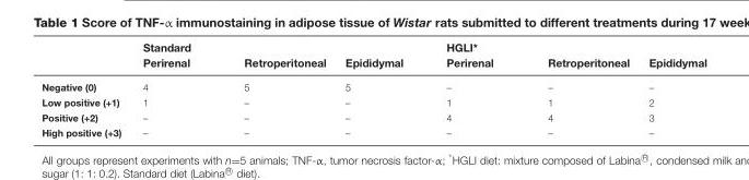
<table><thead><tr><td rowspan="2"></td><td rowspan="2">Standard Perirenal</td><td rowspan="2">Retroperitoneal</td><td rowspan="2">Epididymal</td><td rowspan="2">HGLI* Perirenal</td><td rowspan="2">Retroperitoneal</td><td rowspan="2">Epididymal</td></tr><tr></tr></thead><tbody><tr><td>Negative (0)</td><td>4</td><td>5</td><td>5</td><td>–</td><td>–</td><td>–</td></tr><tr><td>Low positive (+1)</td><td>1</td><td>–</td><td>–</td><td>1</td><td>1</td><td>2</td></tr><tr><td>Positive (+2)</td><td>–</td><td>–</td><td>–</td><td>4</td><td>4</td><td>3</td></tr><tr><td>High positive (+3)</td><td>–</td><td>–</td><td>–</td><td>–</td><td>–</td><td>–</td></tr></tbody></table>